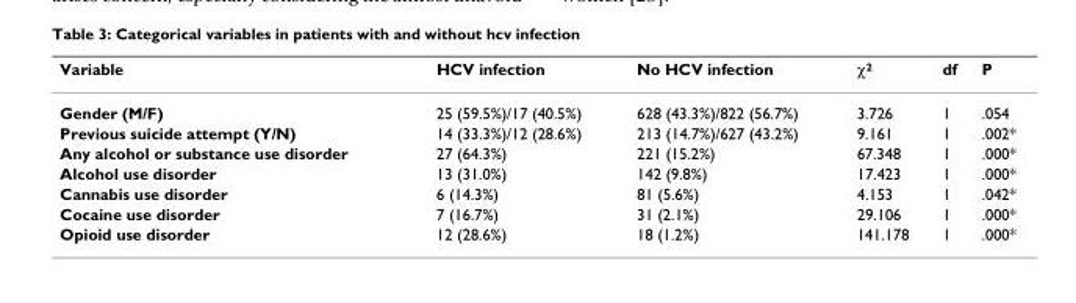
<table><thead><tr><td>Variable</td><td>HCV infection</td><td>No HCV infection</td><td>χ<sup>2</sup></td><td>df</td><td>P</td></tr></thead><tbody><tr><td>Gender (M/F)</td><td>25 (59.5%)/17 (40.5%)</td><td>628 (43.3%)/822 (56.7%)</td><td>3.726</td><td>1</td><td>.054</td></tr><tr><td>Previous suicide attempt (Y/N)</td><td>14 (33.3%)/12 (28.6%)</td><td>213 (14.7%)/627 (43.2%)</td><td>9.161</td><td>1</td><td>.002*</td></tr><tr><td>Any alcohol or substance use disorder</td><td>27 (64.3%)</td><td>221 (15.2%)</td><td>67.348</td><td>1</td><td>.000*</td></tr><tr><td>Alcohol use disorder</td><td>13 (31.0%)</td><td>142 (9.8%)</td><td>17.423</td><td>1</td><td>.000*</td></tr><tr><td>Cannabis use disorder</td><td>6 (14.3%)</td><td>81 (5.6%)</td><td>4.153</td><td>1</td><td>.042*</td></tr><tr><td>Cocaine use disorder</td><td>7 (16.7%)</td><td>31 (2.1%)</td><td>29.106</td><td>1</td><td>.000*</td></tr><tr><td>Opioid use disorder</td><td>12 (28.6%)</td><td>18 (1.2%)</td><td>141.178</td><td>1</td><td>.000*</td></tr></tbody></table>